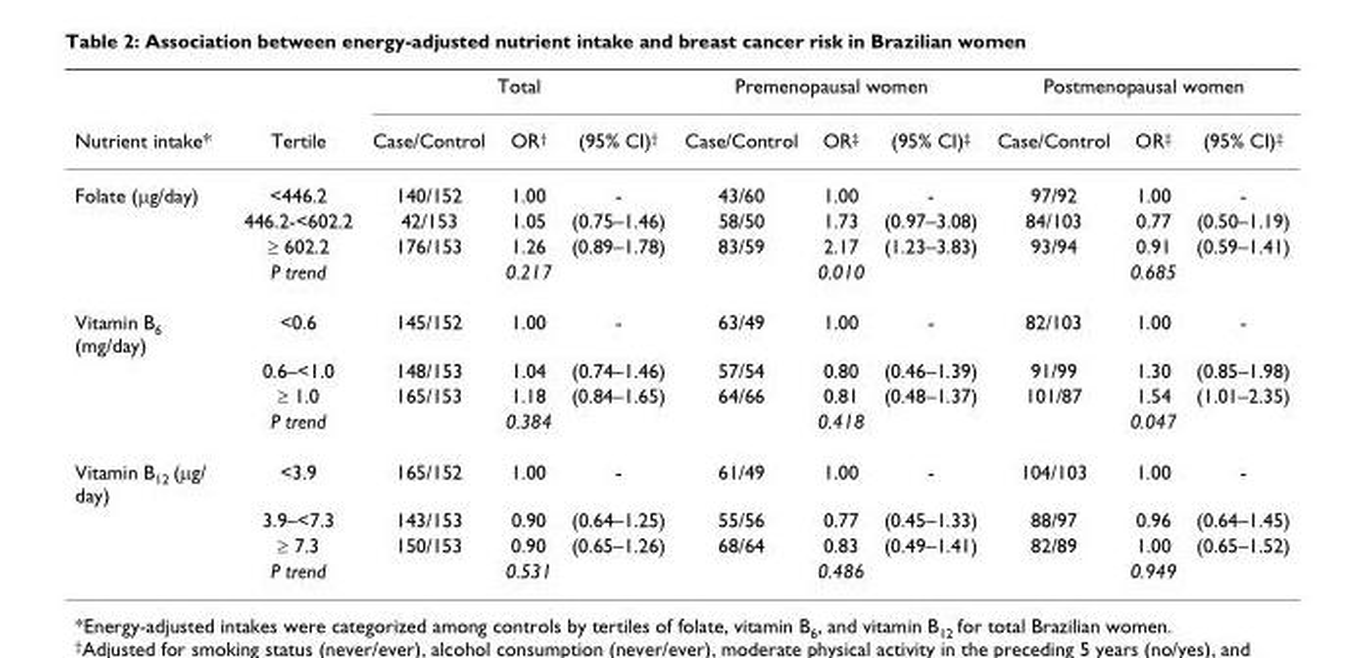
<table><thead><tr><td rowspan="2">Nutrient intake*</td><td rowspan="2">Tertile</td><td colspan="3">Total</td><td colspan="3">Premenopausal women</td><td colspan="3">Postmenopausal women</td></tr><tr><td>Case/Control</td><td>OR<sup>†</sup></td><td>(95% CI)<sup>†</sup></td><td>Case/Control</td><td>OR<sup>‡</sup></td><td>(95% CI)<sup>‡</sup></td><td>Case/Control</td><td>OR<sup>‡</sup></td><td>(95% CI)<sup>‡</sup></td></tr></thead><tbody><tr><td rowspan="4">Folate (μg/day)</td><td>&lt;446.2</td><td>140/152</td><td>1.00</td><td>-</td><td>43/60</td><td>1.00</td><td>-</td><td>97/92</td><td>1.00</td><td>-</td></tr><tr><td>446.2-&lt;602.2</td><td>42/153</td><td>1.05</td><td>(0.75–1.46)</td><td>58/50</td><td>1.73</td><td>(0.97–3.08)</td><td>84/103</td><td>0.77</td><td>(0.50–1.19)</td></tr><tr><td>≥ 602.2</td><td>176/153</td><td>1.26</td><td>(0.89–1.78)</td><td>83/59</td><td>2.17</td><td>(1.23–3.83)</td><td>93/94</td><td>0.91</td><td>(0.59–1.41)</td></tr><tr><td>P trend</td><td></td><td>0.217</td><td></td><td></td><td>0.010</td><td></td><td></td><td>0.685</td><td></td></tr><tr><td rowspan="4">Vitamin B<sub>6</sub> (mg/day)</td><td>&lt;0.6</td><td>145/152</td><td>1.00</td><td>-</td><td>63/49</td><td>1.00</td><td>-</td><td>82/103</td><td>1.00</td><td>-</td></tr><tr><td>0.6–&lt;1.0</td><td>148/153</td><td>1.04</td><td>(0.74–1.46)</td><td>57/54</td><td>0.80</td><td>(0.46–1.39)</td><td>91/99</td><td>1.30</td><td>(0.85–1.98)</td></tr><tr><td>≥ 1.0</td><td>165/153</td><td>1.18</td><td>(0.84–1.65)</td><td>64/66</td><td>0.81</td><td>(0.48–1.37)</td><td>101/87</td><td>1.54</td><td>(1.01–2.35)</td></tr><tr><td>P trend</td><td></td><td>0.384</td><td></td><td></td><td>0.418</td><td></td><td></td><td>0.047</td><td></td></tr><tr><td rowspan="4">Vitamin B<sub>12</sub> (μg/ day)</td><td>&lt;3.9</td><td>165/152</td><td>1.00</td><td>-</td><td>61/49</td><td>1.00</td><td>-</td><td>104/103</td><td>1.00</td><td>-</td></tr><tr><td>3.9–&lt;7.3</td><td>143/153</td><td>0.90</td><td>(0.64–1.25)</td><td>55/56</td><td>0.77</td><td>(0.45–1.33)</td><td>88/97</td><td>0.96</td><td>(0.64–1.45)</td></tr><tr><td>≥ 7.3</td><td>150/153</td><td>0.90</td><td>(0.65–1.26)</td><td>68/64</td><td>0.83</td><td>(0.49–1.41)</td><td>82/89</td><td>1.00</td><td>(0.65–1.52)</td></tr><tr><td>P trend</td><td></td><td>0.531</td><td></td><td></td><td>0.486</td><td></td><td></td><td>0.949</td><td></td></tr></tbody></table>